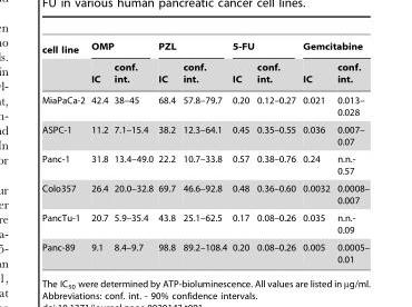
<table><thead><tr><td rowspan="2">cell line</td><td colspan="2">OMP</td><td colspan="2">PZL</td><td colspan="2">5-FU</td><td colspan="2">Gemcitabine</td></tr><tr><td>IC</td><td>conf. int.</td><td>IC</td><td>conf. int.</td><td>IC</td><td>conf. int.</td><td>IC</td><td>conf. int.</td></tr></thead><tbody><tr><td>MiaPaCa-2</td><td>42.4</td><td>38–45</td><td>68.4</td><td>57.8–79.7</td><td>0.20</td><td>0.12–0.27</td><td>0.021</td><td>0.013– 0.028</td></tr><tr><td>ASPC-1</td><td>11.2</td><td>7.1–15.4</td><td>38.2</td><td>12.3–64.1</td><td>0.45</td><td>0.35–0.55</td><td>0.036</td><td>0.007– 0.07</td></tr><tr><td>Panc-1</td><td>31.8</td><td>13.4–49.0</td><td>22.2</td><td>10.7–33.8</td><td>0.57</td><td>0.38–0.76</td><td>0.24</td><td>n.n.- 0.57</td></tr><tr><td>Colo357</td><td>26.4</td><td>20.0–32.8</td><td>69.7</td><td>46.6–92.8</td><td>0.48</td><td>0.36–0.60</td><td>0.0032</td><td>0.0008– 0.007</td></tr><tr><td>PancTu-1</td><td>20.7</td><td>5.9–35.4</td><td>43.8</td><td>25.1–62.5</td><td>0.17</td><td>0.08–0.26</td><td>0.035</td><td>n.n.- 0.09</td></tr><tr><td>Panc-89</td><td>9.1</td><td>8.4–9.7</td><td>98.8</td><td>89.2–108.4</td><td>0.20</td><td>0.08–0.26</td><td>0.005</td><td>0.0005– 0.01</td></tr></tbody></table>